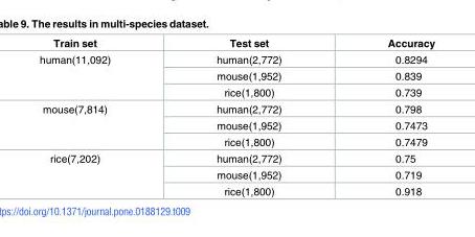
<table><thead><tr><td>Train set</td><td>Test set</td><td>Accuracy</td></tr></thead><tbody><tr><td rowspan="3">human(11,092)</td><td>human(2,772)</td><td>0.8294</td></tr><tr><td>mouse(1,952)</td><td>0.839</td></tr><tr><td>rice(1,800)</td><td>0.739</td></tr><tr><td rowspan="3">mouse(7,814)</td><td>human(2,772)</td><td>0.798</td></tr><tr><td>mouse(1,952)</td><td>0.7473</td></tr><tr><td>rice(1,800)</td><td>0.7479</td></tr><tr><td rowspan="3">rice(7,202)</td><td>human(2,772)</td><td>0.75</td></tr><tr><td>mouse(1,952)</td><td>0.719</td></tr><tr><td>rice(1,800)</td><td>0.918</td></tr></tbody></table>